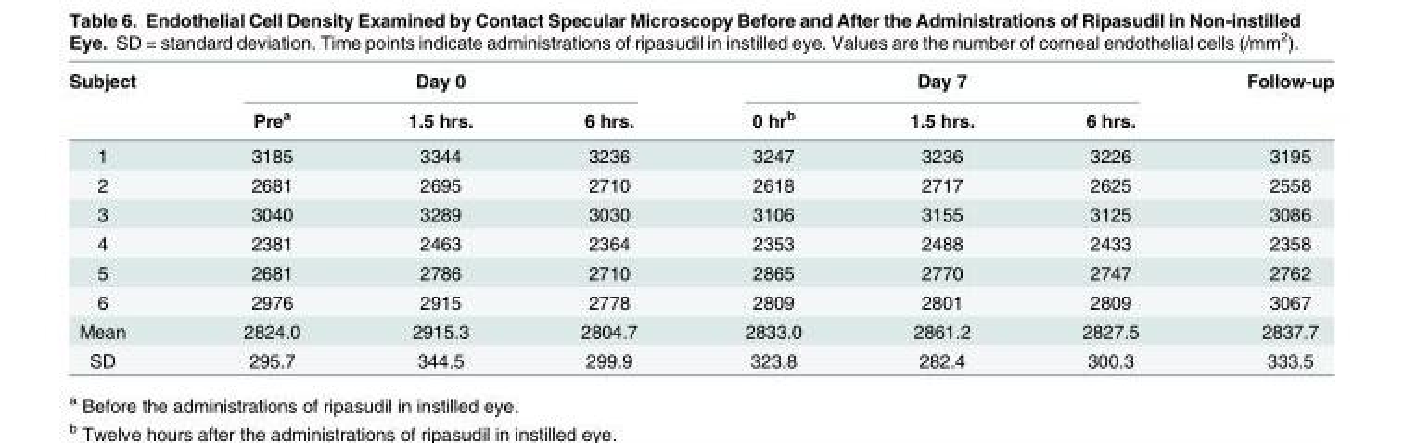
<table><thead><tr><td rowspan="2">Subject</td><td colspan="3">Day 0</td><td colspan="3">Day 7</td><td rowspan="2">Follow-up</td></tr><tr><td>Pre<sup>a</sup></td><td>1.5 hrs.</td><td>6 hrs.</td><td>0 hr<sup>b</sup></td><td>1.5 hrs.</td><td>6 hrs.</td></tr></thead><tbody><tr><td>1</td><td>3185</td><td>3344</td><td>3236</td><td>3247</td><td>3236</td><td>3226</td><td>3195</td></tr><tr><td>2</td><td>2681</td><td>2695</td><td>2710</td><td>2618</td><td>2717</td><td>2625</td><td>2558</td></tr><tr><td>3</td><td>3040</td><td>3289</td><td>3030</td><td>3106</td><td>3155</td><td>3125</td><td>3086</td></tr><tr><td>4</td><td>2381</td><td>2463</td><td>2364</td><td>2353</td><td>2488</td><td>2433</td><td>2358</td></tr><tr><td>5</td><td>2681</td><td>2786</td><td>2710</td><td>2865</td><td>2770</td><td>2747</td><td>2762</td></tr><tr><td>6</td><td>2976</td><td>2915</td><td>2778</td><td>2809</td><td>2801</td><td>2809</td><td>3067</td></tr><tr><td>Mean</td><td>2824.0</td><td>2915.3</td><td>2804.7</td><td>2833.0</td><td>2861.2</td><td>2827.5</td><td>2837.7</td></tr><tr><td>SD</td><td>295.7</td><td>344.5</td><td>299.9</td><td>323.8</td><td>282.4</td><td>300.3</td><td>333.5</td></tr></tbody></table>